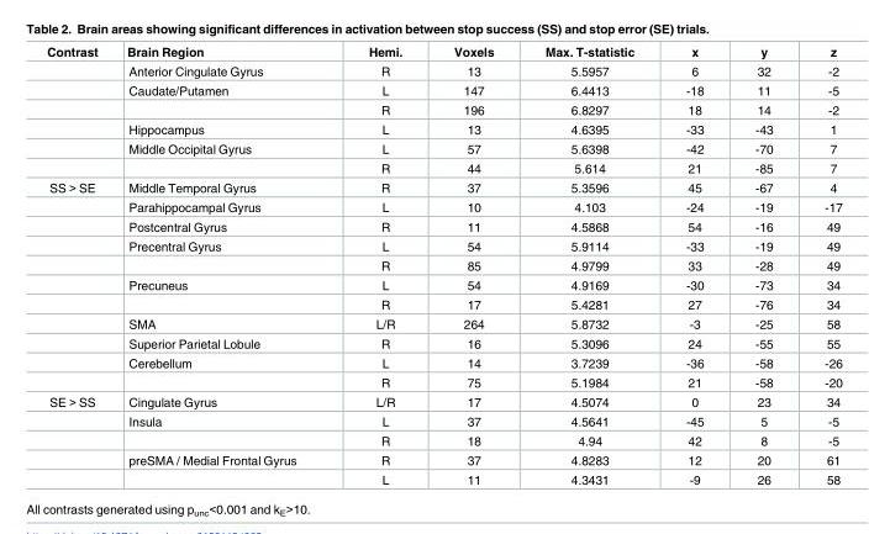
<table><thead><tr><td>Contrast</td><td>Brain Region</td><td>Hemi.</td><td>Voxels</td><td>Max. T-statistic</td><td>x</td><td>y</td><td>z</td></tr></thead><tbody><tr><td></td><td>Anterior Cingulate Gyrus</td><td>R</td><td>13</td><td>5.5957</td><td>6</td><td>32</td><td>-2</td></tr><tr><td></td><td>Caudate/Putamen</td><td>L</td><td>147</td><td>6.4413</td><td>-18</td><td>11</td><td>-5</td></tr><tr><td></td><td></td><td>R</td><td>196</td><td>6.8297</td><td>18</td><td>14</td><td>-2</td></tr><tr><td></td><td>Hippocampus</td><td>L</td><td>13</td><td>4.6395</td><td>-33</td><td>-43</td><td>1</td></tr><tr><td></td><td>Middle Occipital Gyrus</td><td>L</td><td>57</td><td>5.6398</td><td>-42</td><td>-70</td><td>7</td></tr><tr><td></td><td></td><td>R</td><td>44</td><td>5.614</td><td>21</td><td>-85</td><td>7</td></tr><tr><td rowspan="11">SS &gt; SE</td><td>Middle Temporal Gyrus</td><td>R</td><td>37</td><td>5.3596</td><td>45</td><td>-67</td><td>4</td></tr><tr><td>Parahippocampal Gyrus</td><td>L</td><td>10</td><td>4.103</td><td>-24</td><td>-19</td><td>-17</td></tr><tr><td>Postcentral Gyrus</td><td>R</td><td>11</td><td>4.5868</td><td>54</td><td>-16</td><td>49</td></tr><tr><td>Precentral Gyrus</td><td>L</td><td>54</td><td>5.9114</td><td>-33</td><td>-19</td><td>49</td></tr><tr><td></td><td>R</td><td>85</td><td>4.9799</td><td>33</td><td>-28</td><td>49</td></tr><tr><td>Precuneus</td><td>L</td><td>54</td><td>4.9169</td><td>-30</td><td>-73</td><td>34</td></tr><tr><td></td><td>R</td><td>17</td><td>5.4281</td><td>27</td><td>-76</td><td>34</td></tr><tr><td>SMA</td><td>L/R</td><td>264</td><td>5.8732</td><td>-3</td><td>-25</td><td>58</td></tr><tr><td>Superior Parietal Lobule</td><td>R</td><td>16</td><td>5.3096</td><td>24</td><td>-55</td><td>55</td></tr><tr><td>Cerebellum</td><td>L</td><td>14</td><td>3.7239</td><td>-36</td><td>-58</td><td>-26</td></tr><tr><td></td><td>R</td><td>75</td><td>5.1984</td><td>21</td><td>-58</td><td>-20</td></tr><tr><td rowspan="5">SE &gt; SS</td><td>Cingulate Gyrus</td><td>L/R</td><td>17</td><td>4.5074</td><td>0</td><td>23</td><td>34</td></tr><tr><td>Insula</td><td>L</td><td>37</td><td>4.5641</td><td>-45</td><td>5</td><td>-5</td></tr><tr><td></td><td>R</td><td>18</td><td>4.94</td><td>42</td><td>8</td><td>-5</td></tr><tr><td>preSMA / Medial Frontal Gyrus</td><td>R</td><td>37</td><td>4.8283</td><td>12</td><td>20</td><td>61</td></tr><tr><td></td><td>L</td><td>11</td><td>4.3431</td><td>-9</td><td>26</td><td>58</td></tr></tbody></table>